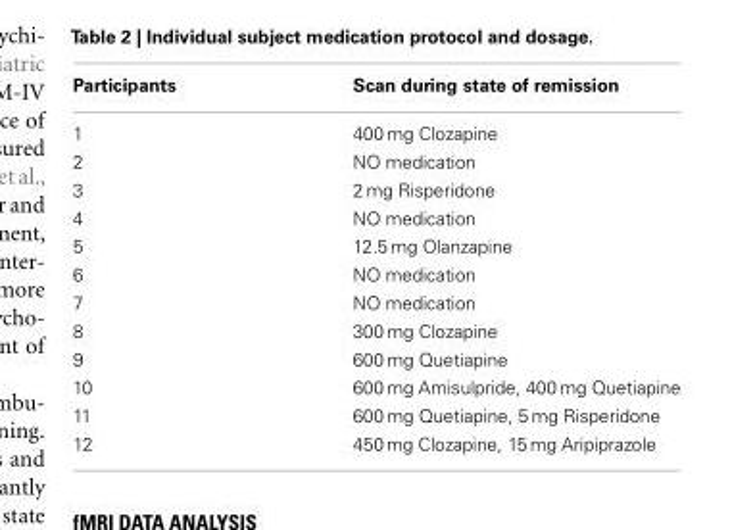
<table><thead><tr><td>Participants</td><td>Scan during state of remission</td></tr></thead><tbody><tr><td>1</td><td>400 mg Clozapine</td></tr><tr><td>2</td><td>NO medication</td></tr><tr><td>3</td><td>2 mg Risperidone</td></tr><tr><td>4</td><td>NO medication</td></tr><tr><td>5</td><td>12.5 mg Olanzapine</td></tr><tr><td>6</td><td>NO medication</td></tr><tr><td>7</td><td>NO medication</td></tr><tr><td>8</td><td>300 mg Clozapine</td></tr><tr><td>9</td><td>600 mg Quetiapine</td></tr><tr><td>10</td><td>600 mg Amisulpride, 400 mg Quetiapine</td></tr><tr><td>11</td><td>600 mg Quetiapine, 5 mg Risperidone</td></tr><tr><td>12</td><td>450 mg Clozapine, 15 mg Aripiprazole</td></tr></tbody></table>